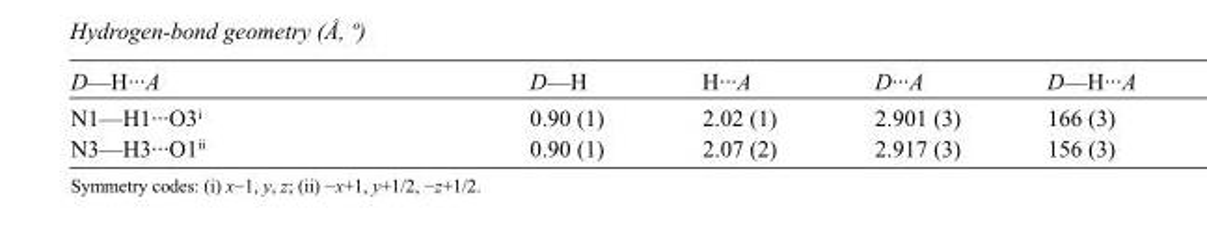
<table><tbody><tr><td>D—H···A</td><td>D—H</td><td>H···A</td><td>D···A</td><td>D—H···A</td></tr><tr><td>N1—H1···O3<sup>i</sup></td><td>0.90 (1)</td><td>2.02 (1)</td><td>2.901 (3)</td><td>166 (3)</td></tr><tr><td>N3—H3···O1<sup>ii</sup></td><td>0.90 (1)</td><td>2.07 (2)</td><td>2.917 (3)</td><td>156 (3)</td></tr></tbody></table>